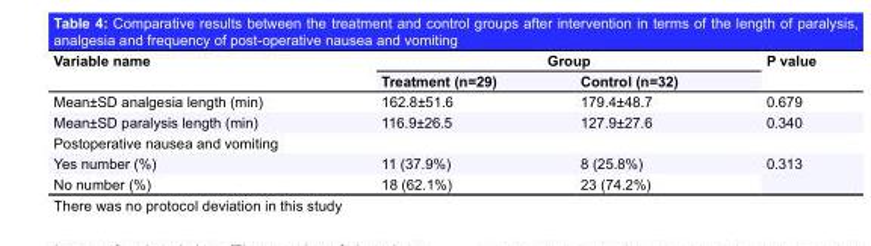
<table><thead><tr><td rowspan="2">Variable name</td><td colspan="2">Group</td><td rowspan="2">P value</td></tr><tr><td>Treatment (n=29)</td><td>Control (n=32)</td></tr></thead><tbody><tr><td>Mean±SD analgesia length (min)</td><td>162.8±51.6</td><td>179.4±48.7</td><td>0.679</td></tr><tr><td>Mean±SD paralysis length (min)</td><td>116.9±26.5</td><td>127.9±27.6</td><td>0.340</td></tr><tr><td colspan="4">Postoperative nausea and vomiting</td></tr><tr><td>Yes number (%)</td><td>11 (37.9%)</td><td>8 (25.8%)</td><td rowspan="2">0.313</td></tr><tr><td>No number (%)</td><td>18 (62.1%)</td><td>23 (74.2%)</td></tr></tbody></table>